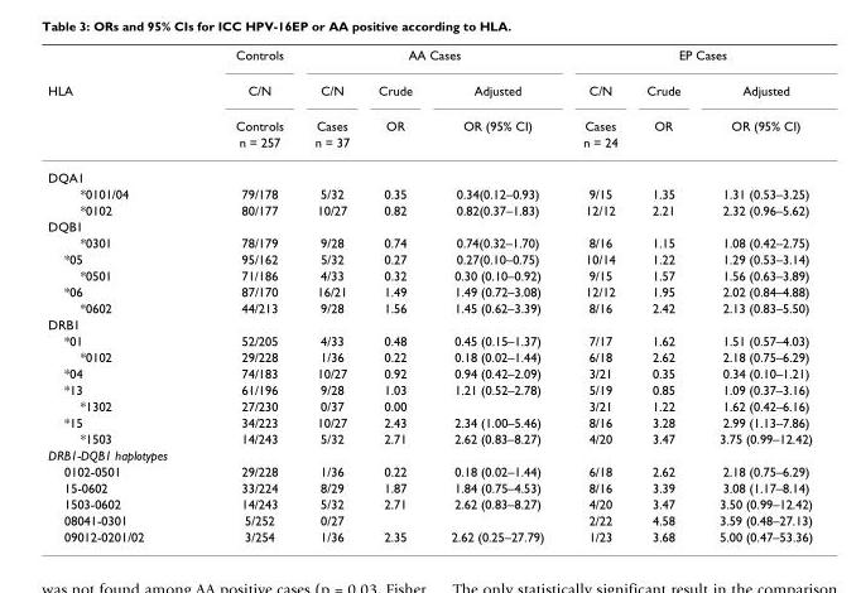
<table><thead><tr><td rowspan="4">HLA</td><td rowspan="4">Controls C/N Controls n = 257</td><td colspan="3">AA Cases</td><td colspan="3">EP Cases</td></tr><tr><td rowspan="3">C/N Cases n = 37</td><td rowspan="3">Crude OR</td><td rowspan="3">Adjusted OR (95% CI)</td><td rowspan="3">C/N Cases n = 24</td><td rowspan="3">Crude OR</td><td rowspan="3">Adjusted OR (95% CI)</td></tr><tr></tr><tr></tr></thead><tbody><tr><td colspan="8">DQA1</td></tr><tr><td>*0101/04</td><td>79/178</td><td>5/32</td><td>0.35</td><td>0.34(0.12–0.93)</td><td>9/15</td><td>1.35</td><td>1.31 (0.53–3.25)</td></tr><tr><td>*0102</td><td>80/177</td><td>10/27</td><td>0.82</td><td>0.82(0.37–1.83)</td><td>12/12</td><td>2.21</td><td>2.32 (0.96–5.62)</td></tr><tr><td colspan="8">DQB1</td></tr><tr><td>*0301</td><td>78/179</td><td>9/28</td><td>0.74</td><td>0.74(0.32–1.70)</td><td>8/16</td><td>1.15</td><td>1.08 (0.42–2.75)</td></tr><tr><td>*05</td><td>95/162</td><td>5/32</td><td>0.27</td><td>0.27(0.10–0.75)</td><td>10/14</td><td>1.22</td><td>1.29 (0.53–3.14)</td></tr><tr><td>*0501</td><td>71/186</td><td>4/33</td><td>0.32</td><td>0.30 (0.10–0.92)</td><td>9/15</td><td>1.57</td><td>1.56 (0.63–3.89)</td></tr><tr><td>*06</td><td>87/170</td><td>16/21</td><td>1.49</td><td>1.49 (0.72–3.08)</td><td>12/12</td><td>1.95</td><td>2.02 (0.84–4.88)</td></tr><tr><td>*0602</td><td>44/213</td><td>9/28</td><td>1.56</td><td>1.45 (0.62–3.39)</td><td>8/16</td><td>2.42</td><td>2.13 (0.83–5.50)</td></tr><tr><td colspan="8">DRB1</td></tr><tr><td>*01</td><td>52/205</td><td>4/33</td><td>0.48</td><td>0.45 (0.15–1.37)</td><td>7/17</td><td>1.62</td><td>1.51 (0.57–4.03)</td></tr><tr><td>*0102</td><td>29/228</td><td>1/36</td><td>0.22</td><td>0.18 (0.02–1.44)</td><td>6/18</td><td>2.62</td><td>2.18 (0.75–6.29)</td></tr><tr><td>*04</td><td>74/183</td><td>10/27</td><td>0.92</td><td>0.94 (0.42–2.09)</td><td>3/21</td><td>0.35</td><td>0.34 (0.10–1.21)</td></tr><tr><td>*13</td><td>61/196</td><td>9/28</td><td>1.03</td><td>1.21 (0.52–2.78)</td><td>5/19</td><td>0.85</td><td>1.09 (0.37–3.16)</td></tr><tr><td>*1302</td><td>27/230</td><td>0/37</td><td>0.00</td><td></td><td>3/21</td><td>1.22</td><td>1.62 (0.42–6.16)</td></tr><tr><td>*15</td><td>34/223</td><td>10/27</td><td>2.43</td><td>2.34 (1.00–5.46)</td><td>8/16</td><td>3.28</td><td>2.99 (1.13–7.86)</td></tr><tr><td>*1503</td><td>14/243</td><td>5/32</td><td>2.71</td><td>2.62 (0.83–8.27)</td><td>4/20</td><td>3.47</td><td>3.75 (0.99–12.42)</td></tr><tr><td colspan="8">DRB1-DQB1 haplotypes</td></tr><tr><td>0102-0501</td><td>29/228</td><td>1/36</td><td>0.22</td><td>0.18 (0.02–1.44)</td><td>6/18</td><td>2.62</td><td>2.18 (0.75–6.29)</td></tr><tr><td>15-0602</td><td>33/224</td><td>8/29</td><td>1.87</td><td>1.84 (0.75–4.53)</td><td>8/16</td><td>3.39</td><td>3.08 (1.17–8.14)</td></tr><tr><td>1503-0602</td><td>14/243</td><td>5/32</td><td>2.71</td><td>2.62 (0.83–8.27)</td><td>4/20</td><td>3.47</td><td>3.50 (0.99–12.42)</td></tr><tr><td>08041-0301</td><td>5/252</td><td>0/27</td><td></td><td></td><td>2/22</td><td>4.58</td><td>3.59 (0.48–27.13)</td></tr><tr><td>09012-0201/02</td><td>3/254</td><td>1/36</td><td>2.35</td><td>2.62 (0.25–27.79)</td><td>1/23</td><td>3.68</td><td>5.00 (0.47–53.36)</td></tr></tbody></table>